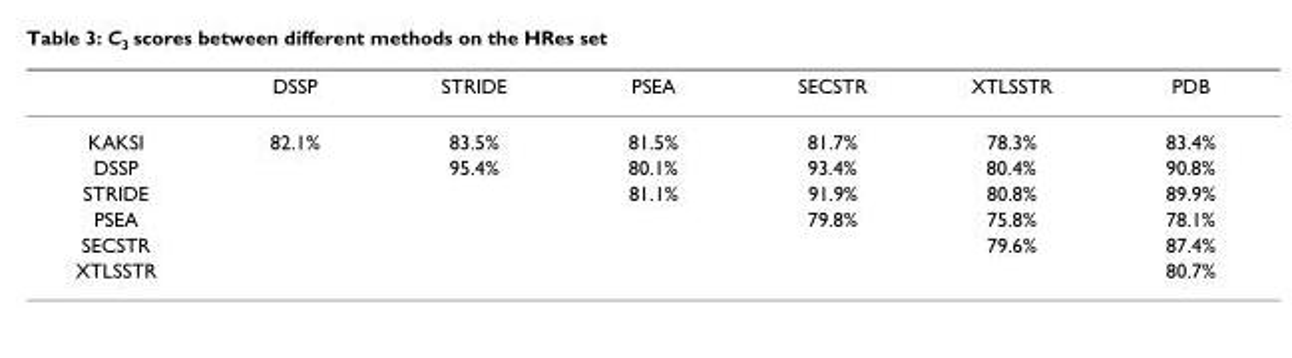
<table><thead><tr><td></td><td>DSSP</td><td>STRIDE</td><td>PSEA</td><td>SECSTR</td><td>XTLSSTR</td><td>PDB</td></tr></thead><tbody><tr><td>KAKSI</td><td>82.1%</td><td>83.5%</td><td>81.5%</td><td>81.7%</td><td>78.3%</td><td>83.4%</td></tr><tr><td>DSSP</td><td></td><td>95.4%</td><td>80.1%</td><td>93.4%</td><td>80.4%</td><td>90.8%</td></tr><tr><td>STRIDE</td><td></td><td></td><td>81.1%</td><td>91.9%</td><td>80.8%</td><td>89.9%</td></tr><tr><td>PSEA</td><td></td><td></td><td></td><td>79.8%</td><td>75.8%</td><td>78.1%</td></tr><tr><td>SECSTR</td><td></td><td></td><td></td><td></td><td>79.6%</td><td>87.4%</td></tr><tr><td>XTLSSTR</td><td></td><td></td><td></td><td></td><td></td><td>80.7%</td></tr></tbody></table>